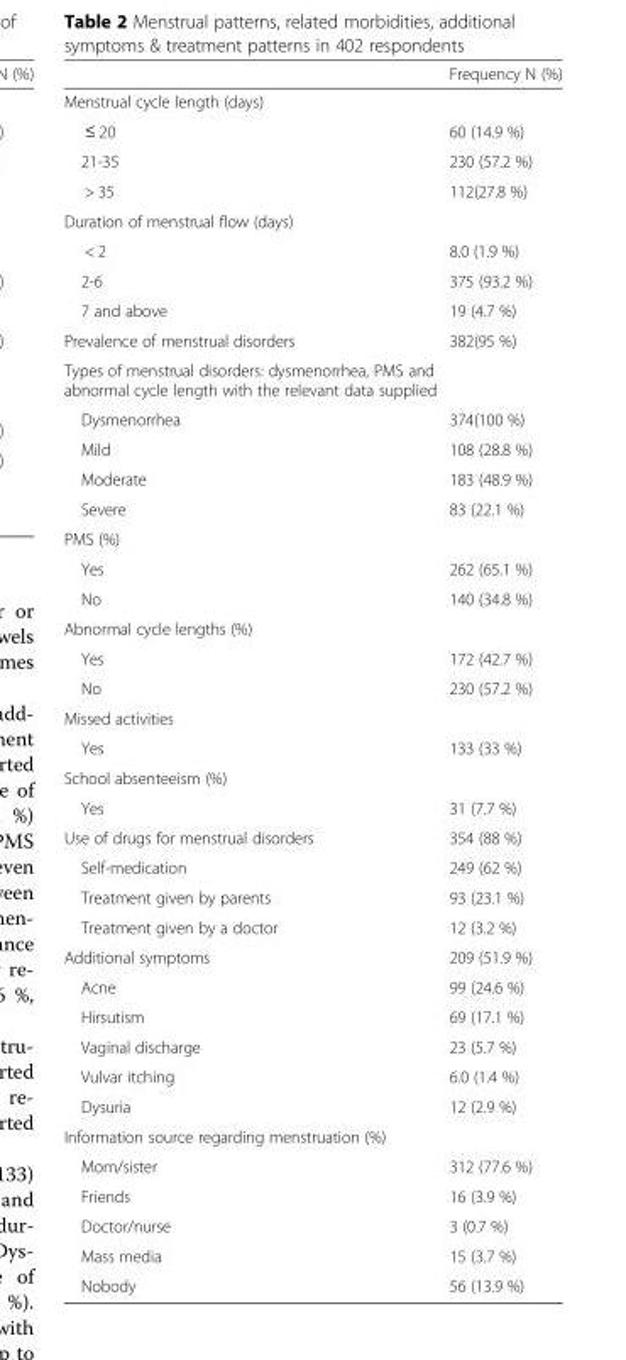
<table><thead><tr><td></td><td>Frequency N (%)</td></tr></thead><tbody><tr><td colspan="2">Menstrual cycle length (days)</td></tr><tr><td>≤ 20</td><td>60 (14.9 %)</td></tr><tr><td>21-35</td><td>230 (57.2 %)</td></tr><tr><td>&gt; 35</td><td>112(27.8 %)</td></tr><tr><td colspan="2">Duration of menstrual flow (days)</td></tr><tr><td>&lt; 2</td><td>8.0 (1.9 %)</td></tr><tr><td>2-6</td><td>375 (93.2 %)</td></tr><tr><td>7 and above</td><td>19 (4.7 %)</td></tr><tr><td>Prevalence of menstrual disorders</td><td>382(95 %)</td></tr><tr><td colspan="2">Types of menstrual disorders: dysmenorrhea, PMS and abnormal cycle length with the relevant data supplied</td></tr><tr><td>Dysmenorrhea</td><td>374(100 %)</td></tr><tr><td>Mild</td><td>108 (28.8 %)</td></tr><tr><td>Moderate</td><td>183 (48.9 %)</td></tr><tr><td>Severe</td><td>83 (22.1 %)</td></tr><tr><td colspan="2">PMS (%)</td></tr><tr><td>Yes</td><td>262 (65.1 %)</td></tr><tr><td>No</td><td>140 (34.8 %)</td></tr><tr><td colspan="2">Abnormal cycle lengths (%)</td></tr><tr><td>Yes</td><td>172 (42.7 %)</td></tr><tr><td>No</td><td>230 (57.2 %)</td></tr><tr><td colspan="2">Missed activities</td></tr><tr><td>Yes</td><td>133 (33 %)</td></tr><tr><td colspan="2">School absenteeism (%)</td></tr><tr><td>Yes</td><td>31 (7.7 %)</td></tr><tr><td>Use of drugs for menstrual disorders</td><td>354 (88 %)</td></tr><tr><td>Self-medication</td><td>249 (62 %)</td></tr><tr><td>Treatment given by parents</td><td>93 (23.1 %)</td></tr><tr><td>Treatment given by a doctor</td><td>12 (3.2 %)</td></tr><tr><td>Additional symptoms</td><td>209 (51.9 %)</td></tr><tr><td>Acne</td><td>99 (24.6 %)</td></tr><tr><td>Hirsutism</td><td>69 (17.1 %)</td></tr><tr><td>Vaginal discharge</td><td>23 (5.7 %)</td></tr><tr><td>Vulvar itching</td><td>6.0 (1.4 %)</td></tr><tr><td>Dysuria</td><td>12 (2.9 %)</td></tr><tr><td colspan="2">Information source regarding menstruation (%)</td></tr><tr><td>Mom/sister</td><td>312 (77.6 %)</td></tr><tr><td>Friends</td><td>16 (3.9 %)</td></tr><tr><td>Doctor/nurse</td><td>3 (0.7 %)</td></tr><tr><td>Mass media</td><td>15 (3.7 %)</td></tr><tr><td>Nobody</td><td>56 (13.9 %)</td></tr></tbody></table>